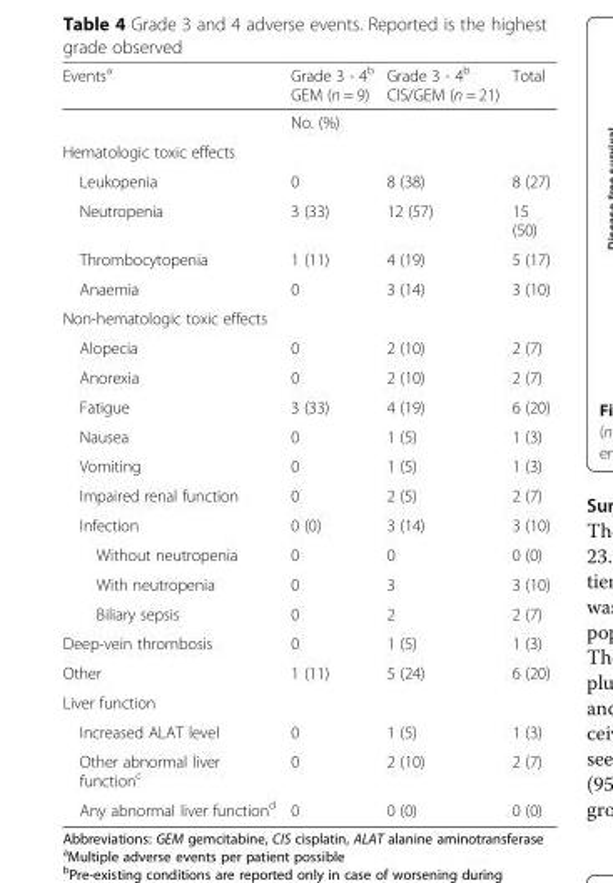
<table><thead><tr><td>Events<sup>a</sup></td><td>Grade 3 - 4<sup>b</sup> GEM (n = 9)</td><td>Grade 3 - 4<sup>b</sup> CIS/GEM (n = 21)</td><td>Total</td></tr></thead><tbody><tr><td></td><td colspan="3">No. (%)</td></tr><tr><td colspan="4">Hematologic toxic effects</td></tr><tr><td>Leukopenia</td><td>0</td><td>8 (38)</td><td>8 (27)</td></tr><tr><td>Neutropenia</td><td>3 (33)</td><td>12 (57)</td><td>15 (50)</td></tr><tr><td>Thrombocytopenia</td><td>1 (11)</td><td>4 (19)</td><td>5 (17)</td></tr><tr><td>Anaemia</td><td>0</td><td>3 (14)</td><td>3 (10)</td></tr><tr><td colspan="4">Non-hematologic toxic effects</td></tr><tr><td>Alopecia</td><td>0</td><td>2 (10)</td><td>2 (7)</td></tr><tr><td>Anorexia</td><td>0</td><td>2 (10)</td><td>2 (7)</td></tr><tr><td>Fatigue</td><td>3 (33)</td><td>4 (19)</td><td>6 (20)</td></tr><tr><td>Nausea</td><td>0</td><td>1 (5)</td><td>1 (3)</td></tr><tr><td>Vomiting</td><td>0</td><td>1 (5)</td><td>1 (3)</td></tr><tr><td>Impaired renal function</td><td>0</td><td>2 (5)</td><td>2 (7)</td></tr><tr><td>Infection</td><td>0 (0)</td><td>3 (14)</td><td>3 (10)</td></tr><tr><td>Without neutropenia</td><td>0</td><td>0</td><td>0 (0)</td></tr><tr><td>With neutropenia</td><td>0</td><td>3</td><td>3 (10)</td></tr><tr><td>Biliary sepsis</td><td>0</td><td>2</td><td>2 (7)</td></tr><tr><td>Deep-vein thrombosis</td><td>0</td><td>1 (5)</td><td>1 (3)</td></tr><tr><td>Other</td><td>1 (11)</td><td>5 (24)</td><td>6 (20)</td></tr><tr><td colspan="4">Liver function</td></tr><tr><td>Increased ALAT level</td><td>0</td><td>1 (5)</td><td>1 (3)</td></tr><tr><td>Other abnormal liver function<sup>c</sup></td><td>0</td><td>2 (10)</td><td>2 (7)</td></tr><tr><td>Any abnormal liver function<sup>d</sup></td><td>0</td><td>0 (0)</td><td>0 (0)</td></tr></tbody></table>